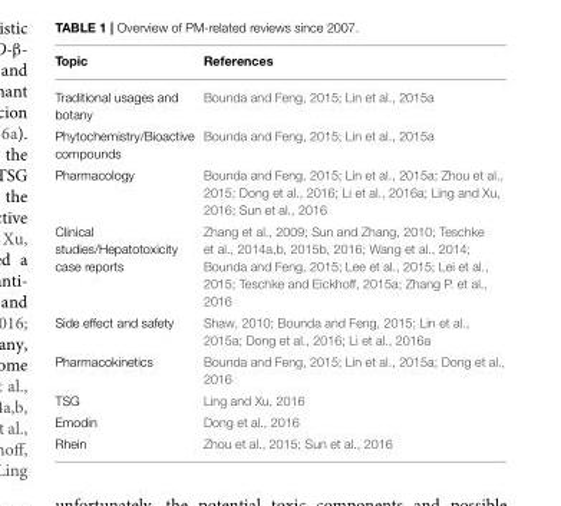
<table><thead><tr><td>Topic</td><td>References</td></tr></thead><tbody><tr><td>Traditional usages and botany</td><td>Bounda and Feng, 2015; Lin et al., 2015a</td></tr><tr><td>Phytochemistry/Bioactive compounds</td><td>Bounda and Feng, 2015; Lin et al., 2015a</td></tr><tr><td>Pharmacology</td><td>Bounda and Feng, 2015; Lin et al., 2015a; Zhou et al., 2015; Dong et al., 2016; Li et al., 2016a; Ling and Xu, 2016; Sun et al., 2016</td></tr><tr><td>Clinical studies/Hepatotoxicity case reports</td><td>Zhang et al., 2009; Sun and Zhang, 2010; Teschke et al., 2014a,b, 2015b, 2016; Wang et al., 2014; Bounda and Feng, 2015; Lee et al., 2015; Lei et al., 2015; Teschke and Eickhoff, 2015a; Zhang P. et al., 2016</td></tr><tr><td>Side effect and safety</td><td>Shaw, 2010; Bounda and Feng, 2015; Lin et al., 2015a; Dong et al., 2016; Li et al., 2016a</td></tr><tr><td>Pharmacokinetics</td><td>Bounda and Feng, 2015; Lin et al., 2015a; Dong et al., 2016</td></tr><tr><td>TSG</td><td>Ling and Xu, 2016</td></tr><tr><td>Emodin</td><td>Dong et al., 2016</td></tr><tr><td>Rhein</td><td>Zhou et al., 2015; Sun et al., 2016</td></tr></tbody></table>